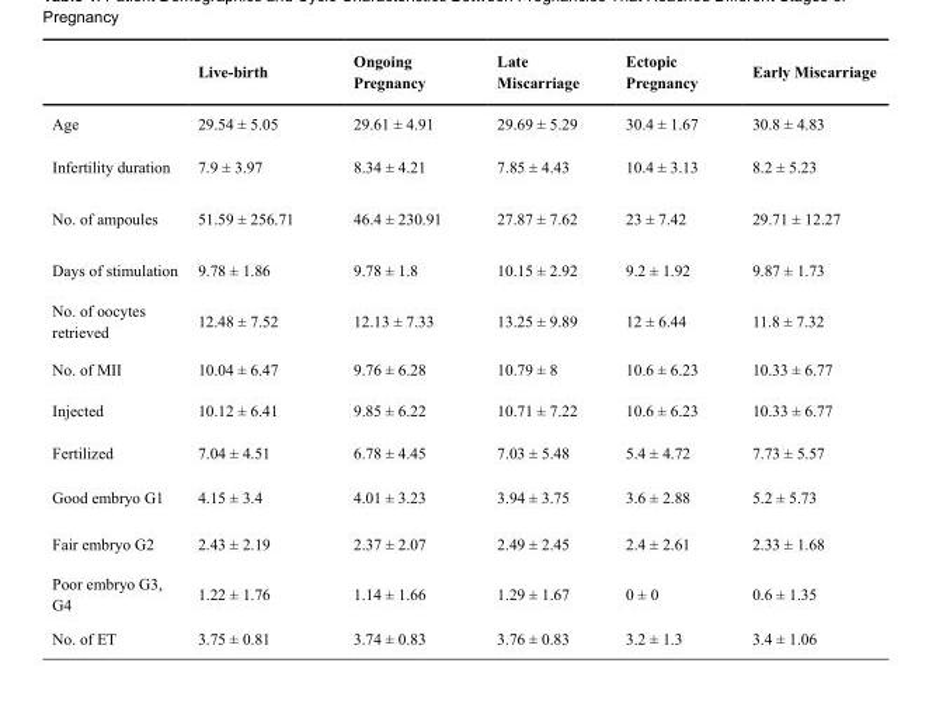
<table><thead><tr><td></td><td>Live-birth</td><td>Ongoing Pregnancy</td><td>Late Miscarriage</td><td>Ectopic Pregnancy</td><td>Early Miscarriage</td></tr></thead><tbody><tr><td>Age</td><td>29.54 ± 5.05</td><td>29.61 ± 4.91</td><td>29.69 ± 5.29</td><td>30.4 ± 1.67</td><td>30.8 ± 4.83</td></tr><tr><td>Infertility duration</td><td>7.9 ± 3.97</td><td>8.34 ± 4.21</td><td>7.85 ± 4.43</td><td>10.4 ± 3.13</td><td>8.2 ± 5.23</td></tr><tr><td>No. of ampoules</td><td>51.59 ± 256.71</td><td>46.4 ± 230.91</td><td>27.87 ± 7.62</td><td>23 ± 7.42</td><td>29.71 ± 12.27</td></tr><tr><td>Days of stimulation</td><td>9.78 ± 1.86</td><td>9.78 ± 1.8</td><td>10.15 ± 2.92</td><td>9.2 ± 1.92</td><td>9.87 ± 1.73</td></tr><tr><td>No. of oocytes retrieved</td><td>12.48 ± 7.52</td><td>12.13 ± 7.33</td><td>13.25 ± 9.89</td><td>12 ± 6.44</td><td>11.8 ± 7.32</td></tr><tr><td>No. of MII</td><td>10.04 ± 6.47</td><td>9.76 ± 6.28</td><td>10.79 ± 8</td><td>10.6 ± 6.23</td><td>10.33 ± 6.77</td></tr><tr><td>Injected</td><td>10.12 ± 6.41</td><td>9.85 ± 6.22</td><td>10.71 ± 7.22</td><td>10.6 ± 6.23</td><td>10.33 ± 6.77</td></tr><tr><td>Fertilized</td><td>7.04 ± 4.51</td><td>6.78 ± 4.45</td><td>7.03 ± 5.48</td><td>5.4 ± 4.72</td><td>7.73 ± 5.57</td></tr><tr><td>Good embryo G1</td><td>4.15 ± 3.4</td><td>4.01 ± 3.23</td><td>3.94 ± 3.75</td><td>3.6 ± 2.88</td><td>5.2 ± 5.73</td></tr><tr><td>Fair embryo G2</td><td>2.43 ± 2.19</td><td>2.37 ± 2.07</td><td>2.49 ± 2.45</td><td>2.4 ± 2.61</td><td>2.33 ± 1.68</td></tr><tr><td>Poor embryo G3, G4</td><td>1.22 ± 1.76</td><td>1.14 ± 1.66</td><td>1.29 ± 1.67</td><td>0 ± 0</td><td>0.6 ± 1.35</td></tr><tr><td>No. of ET</td><td>3.75 ± 0.81</td><td>3.74 ± 0.83</td><td>3.76 ± 0.83</td><td>3.2 ± 1.3</td><td>3.4 ± 1.06</td></tr></tbody></table>